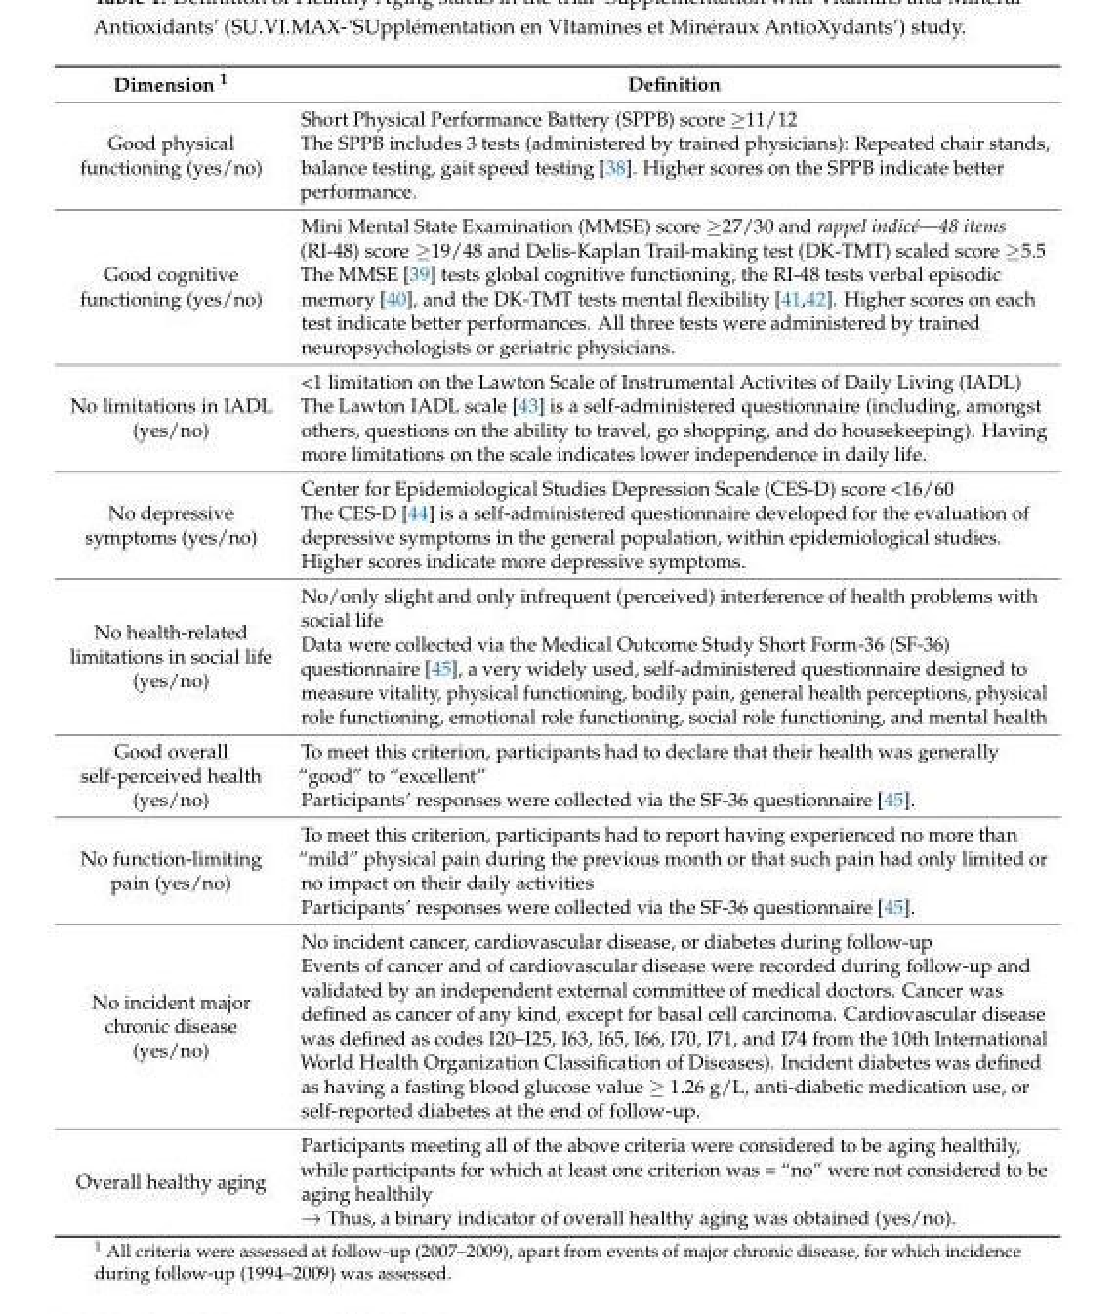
<table><thead><tr><td>Dimension <sup>1</sup></td><td>Definition</td></tr></thead><tbody><tr><td>Good physical functioning (yes/no)</td><td>Short Physical Performance Battery (SPPB) score ≥11/12 The SPPB includes 3 tests (administered by trained physicians): Repeated chair stands, balance testing, gait speed testing [38]. Higher scores on the SPPB indicate better performance.</td></tr><tr><td>Good cognitive functioning (yes/no)</td><td>Mini Mental State Examination (MMSE) score ≥27/30 and rappel indicé—48 items (RI-48) score ≥19/48 and Delis-Kaplan Trail-making test (DK-TMT) scaled score ≥5.5 The MMSE [39] tests global cognitive functioning, the RI-48 tests verbal episodic memory [40], and the DK-TMT tests mental flexibility [41,42]. Higher scores on each test indicate better performances. All three tests were administered by trained neuropsychologists or geriatric physicians.</td></tr><tr><td>No limitations in IADL (yes/no)</td><td>&lt;1 limitation on the Lawton Scale of Instrumental Activites of Daily Living (IADL) The Lawton IADL scale [43] is a self-administered questionnaire (including, amongst others, questions on the ability to travel, go shopping, and do housekeeping). Having more limitations on the scale indicates lower independence in daily life.</td></tr><tr><td>No depressive symptoms (yes/no)</td><td>Center for Epidemiological Studies Depression Scale (CES-D) score &lt;16/60 The CES-D [44] is a self-administered questionnaire developed for the evaluation of depressive symptoms in the general population, within epidemiological studies. Higher scores indicate more depressive symptoms.</td></tr><tr><td>No health-related limitations in social life (yes/no)</td><td>No/only slight and only infrequent (perceived) interference of health problems with social life Data were collected via the Medical Outcome Study Short Form-36 (SF-36) questionnaire [45], a very widely used, self-administered questionnaire designed to measure vitality, physical functioning, bodily pain, general health perceptions, physical role functioning, emotional role functioning, social role functioning, and mental health</td></tr><tr><td>Good overall self-perceived health (yes/no)</td><td>To meet this criterion, participants had to declare that their health was generally “good” to “excellent” Participants’ responses were collected via the SF-36 questionnaire [45].</td></tr><tr><td>No function-limiting pain (yes/no)</td><td>To meet this criterion, participants had to report having experienced no more than “mild” physical pain during the previous month or that such pain had only limited or no impact on their daily activities Participants’ responses were collected via the SF-36 questionnaire [45].</td></tr><tr><td>No incident major chronic disease (yes/no)</td><td>No incident cancer, cardiovascular disease, or diabetes during follow-up Events of cancer and of cardiovascular disease were recorded during follow-up and validated by an independent external committee of medical doctors. Cancer was defined as cancer of any kind, except for basal cell carcinoma. Cardiovascular disease was defined as codes I20–I25, I63, I65, I66, I70, I71, and I74 from the 10th International World Health Organization Classification of Diseases). Incident diabetes was defined as having a fasting blood glucose value ≥ 1.26 g/L, anti-diabetic medication use, or self-reported diabetes at the end of follow-up.</td></tr><tr><td>Overall healthy aging</td><td>Participants meeting all of the above criteria were considered to be aging healthily, while participants for which at least one criterion was = “no” were not considered to be aging healthily → Thus, a binary indicator of overall healthy aging was obtained (yes/no).</td></tr></tbody></table>